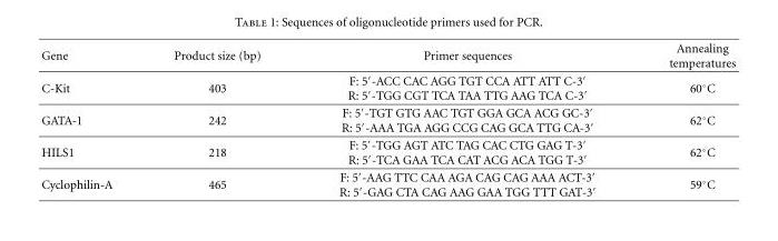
<table><thead><tr><td>Gene</td><td>Product size (bp)</td><td>Primer sequences</td><td>Annealing temperatures</td></tr></thead><tbody><tr><td>C-Kit</td><td>403</td><td>F: 5′-ACC CAC AGG TGT CCA ATT ATT C-3′ R: 5′-TGG CGT TCA TAA TTG AAG TCA C-3′</td><td>60◦C</td></tr><tr><td>GATA-1</td><td>242</td><td>F: 5′-TGT GTG AAC TGT GGA GCA ACG GC-3′ R: 5′-AAA TGA AGG CCG CAG GCA TTG CA-3′</td><td>62◦C</td></tr><tr><td>HILS1</td><td>218</td><td>F: 5′-TGG AGT ATC TAG CAC CTG GAG T-3′ R: 5′-TCA GAA TCA CAT ACG ACA TGG T-3′</td><td>62◦C</td></tr><tr><td>Cyclophilin-A</td><td>465</td><td>F: 5′-AAG TTC CAA AGA CAG CAG AAA ACT-3′ R: 5′-GAG CTA CAG AAG GAA TGG TTT GAT-3′</td><td>59◦C</td></tr></tbody></table>